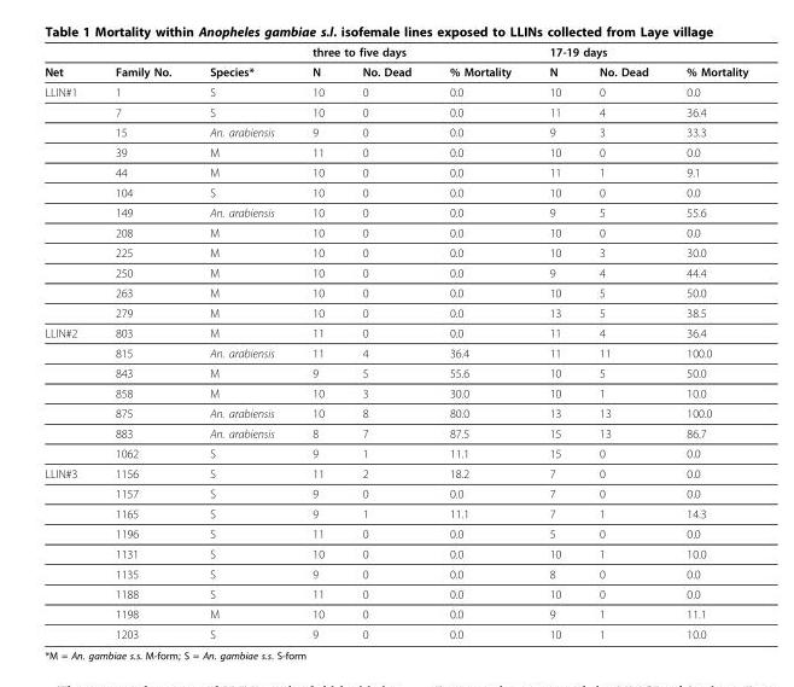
<table><thead><tr><td rowspan="2">Net</td><td rowspan="2">Family No.</td><td rowspan="2">Species*</td><td colspan="3">three to five days</td><td colspan="3">17-19 days</td></tr><tr><td>N</td><td>No. Dead</td><td>% Mortality</td><td>N</td><td>No. Dead</td><td>% Mortality</td></tr></thead><tbody><tr><td rowspan="12">LLIN#1</td><td>1</td><td>S</td><td>10</td><td>0</td><td>0.0</td><td>10</td><td>0</td><td>0.0</td></tr><tr><td>7</td><td>S</td><td>10</td><td>0</td><td>0.0</td><td>11</td><td>4</td><td>36.4</td></tr><tr><td>15</td><td>An. arabiensis</td><td>9</td><td>0</td><td>0.0</td><td>9</td><td>3</td><td>33.3</td></tr><tr><td>39</td><td>M</td><td>11</td><td>0</td><td>0.0</td><td>10</td><td>0</td><td>0.0</td></tr><tr><td>44</td><td>M</td><td>10</td><td>0</td><td>0.0</td><td>11</td><td>1</td><td>9.1</td></tr><tr><td>104</td><td>S</td><td>10</td><td>0</td><td>0.0</td><td>10</td><td>0</td><td>0.0</td></tr><tr><td>149</td><td>An. arabiensis</td><td>10</td><td>0</td><td>0.0</td><td>9</td><td>5</td><td>55.6</td></tr><tr><td>208</td><td>M</td><td>10</td><td>0</td><td>0.0</td><td>10</td><td>0</td><td>0.0</td></tr><tr><td>225</td><td>M</td><td>10</td><td>0</td><td>0.0</td><td>10</td><td>3</td><td>30.0</td></tr><tr><td>250</td><td>M</td><td>10</td><td>0</td><td>0.0</td><td>9</td><td>4</td><td>44.4</td></tr><tr><td>263</td><td>M</td><td>10</td><td>0</td><td>0.0</td><td>10</td><td>5</td><td>50.0</td></tr><tr><td>279</td><td>M</td><td>10</td><td>0</td><td>0.0</td><td>13</td><td>5</td><td>38.5</td></tr><tr><td rowspan="7">LLIN#2</td><td>803</td><td>M</td><td>11</td><td>0</td><td>0.0</td><td>11</td><td>4</td><td>36.4</td></tr><tr><td>815</td><td>An. arabiensis</td><td>11</td><td>4</td><td>36.4</td><td>11</td><td>11</td><td>100.0</td></tr><tr><td>843</td><td>M</td><td>9</td><td>5</td><td>55.6</td><td>10</td><td>5</td><td>50.0</td></tr><tr><td>858</td><td>M</td><td>10</td><td>3</td><td>30.0</td><td>10</td><td>1</td><td>10.0</td></tr><tr><td>875</td><td>An. arabiensis</td><td>10</td><td>8</td><td>80.0</td><td>13</td><td>13</td><td>100.0</td></tr><tr><td>883</td><td>An. arabiensis</td><td>8</td><td>7</td><td>87.5</td><td>15</td><td>13</td><td>86.7</td></tr><tr><td>1062</td><td>S</td><td>9</td><td>1</td><td>11.1</td><td>15</td><td>0</td><td>0.0</td></tr><tr><td rowspan="9">LLIN#3</td><td>1156</td><td>S</td><td>11</td><td>2</td><td>18.2</td><td>7</td><td>0</td><td>0.0</td></tr><tr><td>1157</td><td>S</td><td>9</td><td>0</td><td>0.0</td><td>7</td><td>0</td><td>0.0</td></tr><tr><td>1165</td><td>S</td><td>9</td><td>1</td><td>11.1</td><td>7</td><td>1</td><td>14.3</td></tr><tr><td>1196</td><td>S</td><td>11</td><td>0</td><td>0.0</td><td>5</td><td>0</td><td>0.0</td></tr><tr><td>1131</td><td>S</td><td>10</td><td>0</td><td>0.0</td><td>10</td><td>1</td><td>10.0</td></tr><tr><td>1135</td><td>S</td><td>9</td><td>0</td><td>0.0</td><td>8</td><td>0</td><td>0.0</td></tr><tr><td>1188</td><td>S</td><td>11</td><td>0</td><td>0.0</td><td>10</td><td>0</td><td>0.0</td></tr><tr><td>1198</td><td>M</td><td>10</td><td>0</td><td>0.0</td><td>9</td><td>1</td><td>11.1</td></tr><tr><td>1203</td><td>S</td><td>9</td><td>0</td><td>0.0</td><td>10</td><td>1</td><td>10.0</td></tr></tbody></table>